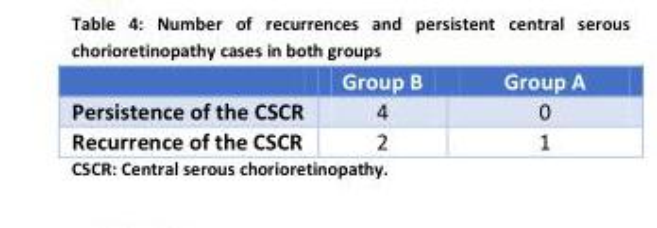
<table><thead><tr><td></td><td>Group B</td><td>Group A</td></tr></thead><tbody><tr><td>Persistence of the CSCR</td><td>4</td><td>0</td></tr><tr><td>Recurrence of the CSCR</td><td>2</td><td>1</td></tr></tbody></table>